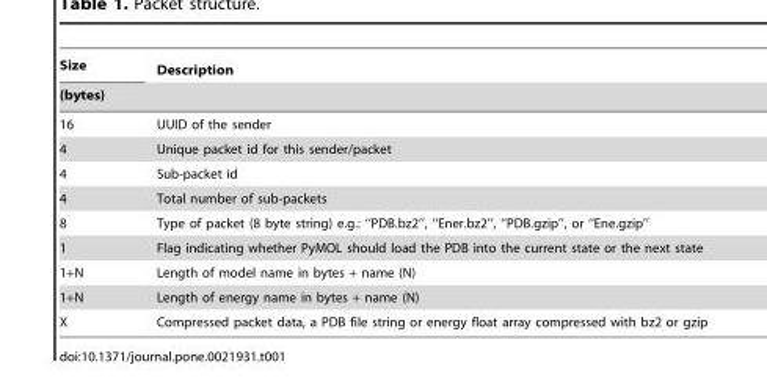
<table><thead><tr><td rowspan="2">Size (bytes)</td><td rowspan="2">Description</td></tr><tr></tr></thead><tbody><tr><td>16</td><td>UUID of the sender</td></tr><tr><td>4</td><td>Unique packet id for this sender/packet</td></tr><tr><td>4</td><td>Sub-packet id</td></tr><tr><td>4</td><td>Total number of sub-packets</td></tr><tr><td>8</td><td>Type of packet (8 byte string) e.g.: ‘‘PDB.bz2’’, ‘‘Ener.bz2’’, ‘‘PDB.gzip’’, or ‘‘Ene.gzip’’</td></tr><tr><td>1</td><td>Flag indicating whether PyMOL should load the PDB into the current state or the next state</td></tr><tr><td>1+N</td><td>Length of model name in bytes + name (N)</td></tr><tr><td>1+N</td><td>Length of energy name in bytes + name (N)</td></tr><tr><td>X</td><td>Compressed packet data, a PDB file string or energy float array compressed with bz2 or gzip</td></tr></tbody></table>